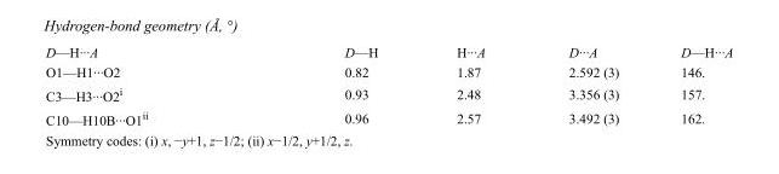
<table><tbody><tr><td>D—H···A</td><td>D—H</td><td>H···A</td><td>D···A</td><td>D—H···A</td></tr><tr><td>O1—H1···O2</td><td>0.82</td><td>1.87</td><td>2.592 (3)</td><td>146.</td></tr><tr><td>C3—H3···O2<sup>i</sup></td><td>0.93</td><td>2.48</td><td>3.356 (3)</td><td>157.</td></tr><tr><td>C10—H10B···O1<sup>ii</sup></td><td>0.96</td><td>2.57</td><td>3.492 (3)</td><td>162.</td></tr></tbody></table>